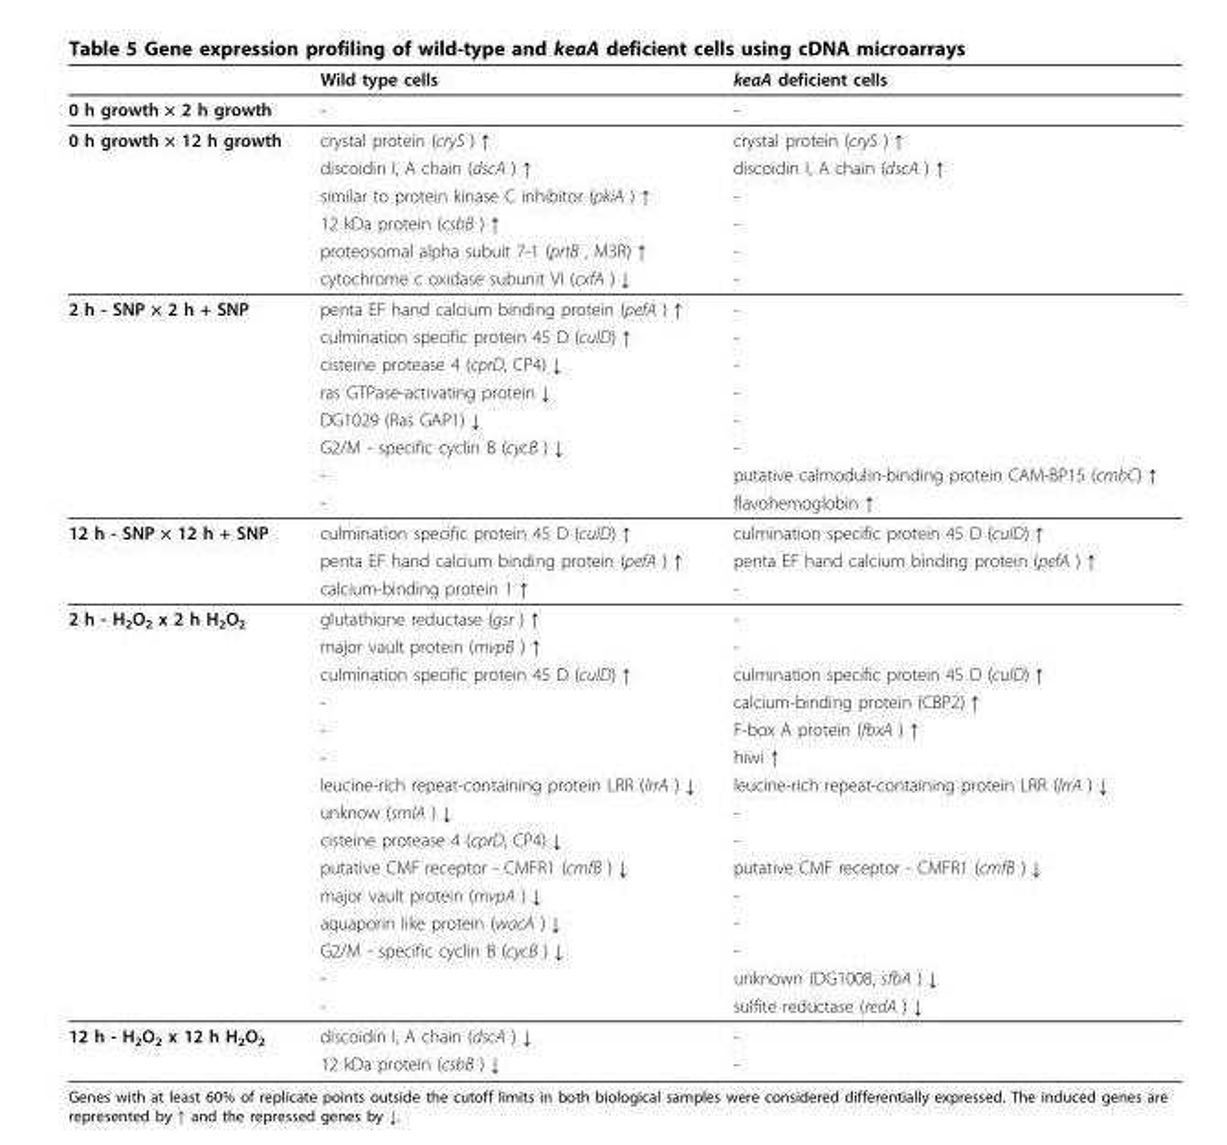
<table><thead><tr><td></td><td>Wild type cells</td><td>keaA deficient cells</td></tr></thead><tbody><tr><td>0 h growth × 2 h growth</td><td>-</td><td>-</td></tr><tr><td rowspan="6">0 h growth × 12 h growth</td><td>crystal protein (cryS ) ↑</td><td>crystal protein (cryS ) ↑</td></tr><tr><td>discoidin I, A chain (dscA ) ↑</td><td>discoidin I, A chain (dscA ) ↑</td></tr><tr><td>similar to protein kinase C inhibitor (pkiA ) ↑</td><td>-</td></tr><tr><td>12 kDa protein (csbB ) ↑</td><td>-</td></tr><tr><td>proteosomal alpha subuit 7-1 (prtB , M3R) ↑</td><td>-</td></tr><tr><td>cytochrome c oxidase subunit VI (cxfA ) ↓</td><td>-</td></tr><tr><td rowspan="8">2 h - SNP × 2 h + SNP</td><td>penta EF hand calcium binding protein (pefA ) ↑</td><td>-</td></tr><tr><td>culmination specific protein 45 D (culD) ↑</td><td>-</td></tr><tr><td>cisteine protease 4 (cprD, CP4) ↓</td><td>-</td></tr><tr><td>ras GTPase-activating protein ↓</td><td>-</td></tr><tr><td>DG1029 (Ras GAP1) ↓</td><td>-</td></tr><tr><td>G2/M - specific cyclin B (cycB ) ↓</td><td>-</td></tr><tr><td>-</td><td>putative calmodulin-binding protein CAM-BP15 (cmbC) ↑</td></tr><tr><td>-</td><td>flavohemoglobin ↑</td></tr><tr><td rowspan="3">12 h - SNP × 12 h + SNP</td><td>culmination specific protein 45 D (culD) ↑</td><td>culmination specific protein 45 D (culD) ↑</td></tr><tr><td>penta EF hand calcium binding protein (pefA ) ↑</td><td>penta EF hand calcium binding protein (pefA ) ↑</td></tr><tr><td>calcium-binding protein 1 ↑</td><td>-</td></tr><tr><td rowspan="15">2 h - H<sub>2</sub>O<sub>2</sub> x 2 h H<sub>2</sub>O<sub>2</sub></td><td>glutathione reductase (gsr ) ↑</td><td>-</td></tr><tr><td>major vault protein (mvpB ) ↑</td><td>-</td></tr><tr><td>culmination specific protein 45 D (culD) ↑</td><td>culmination specific protein 45 D (culD) ↑</td></tr><tr><td>-</td><td>calcium-binding protein (CBP2) ↑</td></tr><tr><td>-</td><td>F-box A protein (fbxA ) ↑</td></tr><tr><td>-</td><td>hiwi ↑</td></tr><tr><td>leucine-rich repeat-containing protein LRR (lrrA ) ↓</td><td>leucine-rich repeat-containing protein LRR (lrrA ) ↓</td></tr><tr><td>unknow (smlA ) ↓</td><td>-</td></tr><tr><td>cisteine protease 4 (cprD, CP4) ↓</td><td>-</td></tr><tr><td>putative CMF receptor - CMFR1 (cmfB ) ↓</td><td>putative CMF receptor - CMFR1 (cmfB ) ↓</td></tr><tr><td>major vault protein (mvpA ) ↓</td><td>-</td></tr><tr><td>aquaporin like protein (wacA ) ↓</td><td>-</td></tr><tr><td>G2/M - specific cyclin B (cycB ) ↓</td><td>-</td></tr><tr><td>-</td><td>unknown (DG1008, sfbA ) ↓</td></tr><tr><td>-</td><td>sulfite reductase (redA ) ↓</td></tr><tr><td rowspan="2">12 h - H<sub>2</sub>O<sub>2</sub> x 12 h H<sub>2</sub>O<sub>2</sub></td><td>discoidin I, A chain (dscA ) ↓</td><td>-</td></tr><tr><td>12 kDa protein (csbB ) ↓</td><td>-</td></tr></tbody></table>